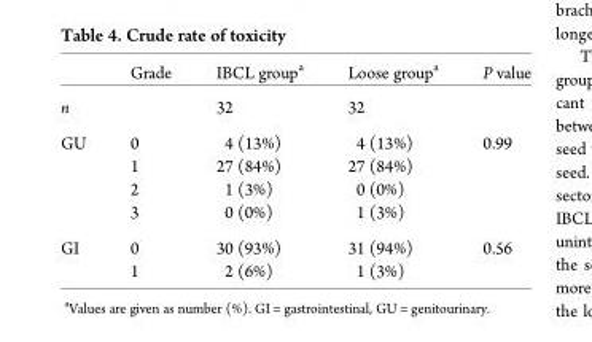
<table><thead><tr><td></td><td>Grade</td><td>IBCL group<sup>a</sup></td><td>Loose group<sup>a</sup></td><td>P value</td></tr></thead><tbody><tr><td>n</td><td></td><td>32</td><td>32</td><td></td></tr><tr><td rowspan="4">GU</td><td>0</td><td>4 (13%)</td><td>4 (13%)</td><td rowspan="4">0.99</td></tr><tr><td>1</td><td>27 (84%)</td><td>27 (84%)</td></tr><tr><td>2</td><td>1 (3%)</td><td>0 (0%)</td></tr><tr><td>3</td><td>0 (0%)</td><td>1 (3%)</td></tr><tr><td rowspan="2">GI</td><td>0</td><td>30 (93%)</td><td>31 (94%)</td><td rowspan="2">0.56</td></tr><tr><td>1</td><td>2 (6%)</td><td>1 (3%)</td></tr></tbody></table>